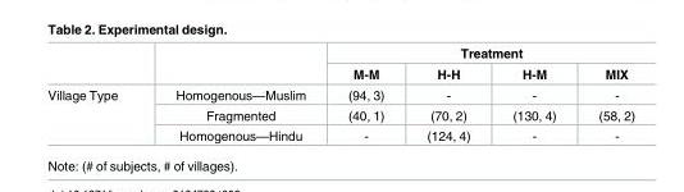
<table><thead><tr><td rowspan="2"></td><td rowspan="2"></td><td colspan="4">Treatment</td></tr><tr><td>M-M</td><td>H-H</td><td>H-M</td><td>MIX</td></tr></thead><tbody><tr><td rowspan="3">Village Type</td><td>Homogenous—Muslim</td><td>(94, 3)</td><td>-</td><td>-</td><td>-</td></tr><tr><td>Fragmented</td><td>(40, 1)</td><td>(70, 2)</td><td>(130, 4)</td><td>(58, 2)</td></tr><tr><td>Homogenous—Hindu</td><td>-</td><td>(124, 4)</td><td>-</td><td>-</td></tr></tbody></table>